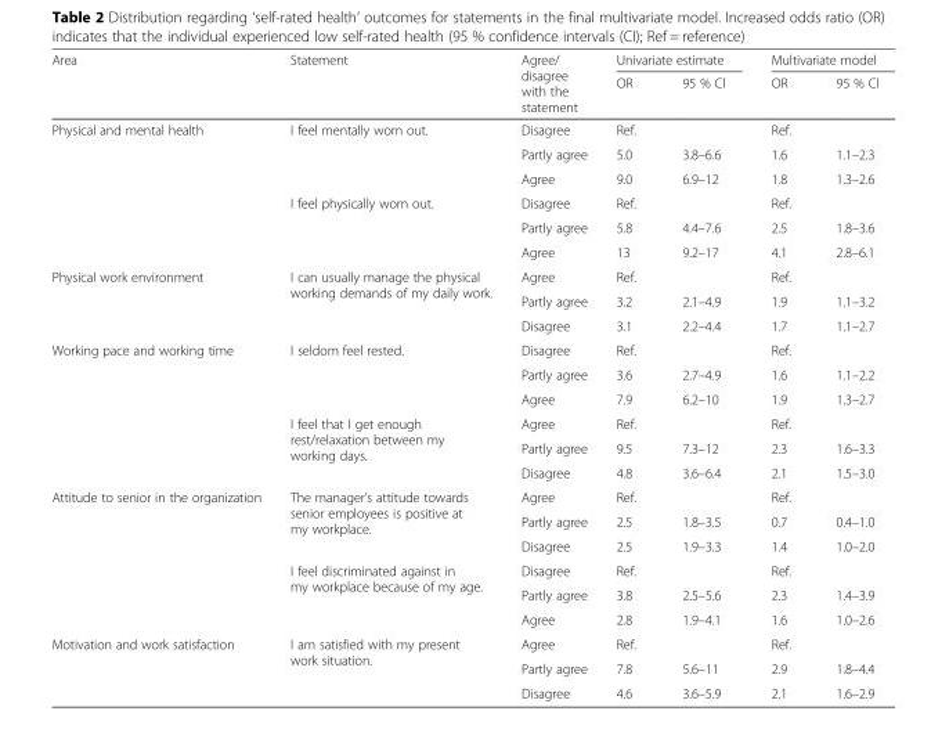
<table><thead><tr><td rowspan="2">Area</td><td rowspan="2">Statement</td><td rowspan="2">Agree/ disagree with the statement</td><td colspan="2">Univariate estimate</td><td colspan="2">Multivariate model</td></tr><tr><td>OR</td><td>95 % Cl</td><td>OR</td><td>95 % Cl</td></tr></thead><tbody><tr><td rowspan="6">Physical and mental health</td><td rowspan="3">I feel mentally worn out.</td><td>Disagree</td><td>Ref.</td><td></td><td>Ref.</td><td></td></tr><tr><td>Partly agree</td><td>5.0</td><td>3.8–6.6</td><td>1.6</td><td>1.1–2.3</td></tr><tr><td>Agree</td><td>9.0</td><td>6.9–12</td><td>1.8</td><td>1.3–2.6</td></tr><tr><td rowspan="3">I feel physically worn out.</td><td>Disagree</td><td>Ref.</td><td></td><td>Ref.</td><td></td></tr><tr><td>Partly agree</td><td>5.8</td><td>4.4–7.6</td><td>2.5</td><td>1.8–3.6</td></tr><tr><td>Agree</td><td>13</td><td>9.2–17</td><td>4.1</td><td>2.8–6.1</td></tr><tr><td rowspan="3">Physical work environment</td><td rowspan="3">I can usually manage the physical working demands of my daily work.</td><td>Agree</td><td>Ref.</td><td></td><td>Ref.</td><td></td></tr><tr><td>Partly agree</td><td>3.2</td><td>2.1–4.9</td><td>1.9</td><td>1.1–3.2</td></tr><tr><td>Disagree</td><td>3.1</td><td>2.2–4.4</td><td>1.7</td><td>1.1–2.7</td></tr><tr><td rowspan="6">Working pace and working time</td><td rowspan="3">I seldom feel rested.</td><td>Disagree</td><td>Ref.</td><td></td><td>Ref.</td><td></td></tr><tr><td>Partly agree</td><td>3.6</td><td>2.7–4.9</td><td>1.6</td><td>1.1–2.2</td></tr><tr><td>Agree</td><td>7.9</td><td>6.2–10</td><td>1.9</td><td>1.3–2.7</td></tr><tr><td rowspan="3">I feel that I get enough rest/relaxation between my working days.</td><td>Agree</td><td>Ref.</td><td></td><td>Ref.</td><td></td></tr><tr><td>Partly agree</td><td>9.5</td><td>7.3–12</td><td>2.3</td><td>1.6–3.3</td></tr><tr><td>Disagree</td><td>4.8</td><td>3.6–6.4</td><td>2.1</td><td>1.5–3.0</td></tr><tr><td rowspan="6">Attitude to senior in the organization</td><td rowspan="3">The manager’s attitude towards senior employees is positive at my workplace.</td><td>Agree</td><td>Ref.</td><td></td><td>Ref.</td><td></td></tr><tr><td>Partly agree</td><td>2.5</td><td>1.8–3.5</td><td>0.7</td><td>0.4–1.0</td></tr><tr><td>Disagree</td><td>2.5</td><td>1.9–3.3</td><td>1.4</td><td>1.0–2.0</td></tr><tr><td rowspan="3">I feel discriminated against in my workplace because of my age.</td><td>Disagree</td><td>Ref.</td><td></td><td>Ref.</td><td></td></tr><tr><td>Partly agree</td><td>3.8</td><td>2.5–5.6</td><td>2.3</td><td>1.4–3.9</td></tr><tr><td>Agree</td><td>2.8</td><td>1.9–4.1</td><td>1.6</td><td>1.0–2.6</td></tr><tr><td rowspan="3">Motivation and work satisfaction</td><td rowspan="3">I am satisfied with my present work situation.</td><td>Agree</td><td>Ref.</td><td></td><td>Ref.</td><td></td></tr><tr><td>Partly agree</td><td>7.8</td><td>5.6–11</td><td>2.9</td><td>1.8–4.4</td></tr><tr><td>Disagree</td><td>4.6</td><td>3.6–5.9</td><td>2.1</td><td>1.6–2.9</td></tr></tbody></table>